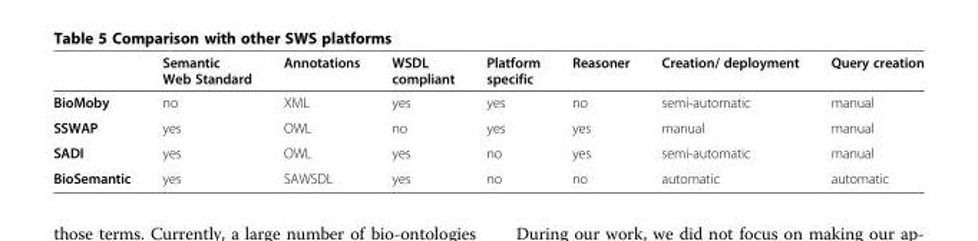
<table><thead><tr><td></td><td>Semantic Web Standard</td><td>Annotations</td><td>WSDL compliant</td><td>Platform specific</td><td>Reasoner</td><td>Creation/ deployment</td><td>Query creation</td></tr></thead><tbody><tr><td>BioMoby</td><td>no</td><td>XML</td><td>yes</td><td>yes</td><td>no</td><td>semi-automatic</td><td>manual</td></tr><tr><td>SSWAP</td><td>yes</td><td>OWL</td><td>no</td><td>yes</td><td>yes</td><td>manual</td><td>manual</td></tr><tr><td>SADI</td><td>yes</td><td>OWL</td><td>yes</td><td>no</td><td>yes</td><td>semi-automatic</td><td>manual</td></tr><tr><td>BioSemantic</td><td>yes</td><td>SAWSDL</td><td>yes</td><td>no</td><td>no</td><td>automatic</td><td>automatic</td></tr></tbody></table>